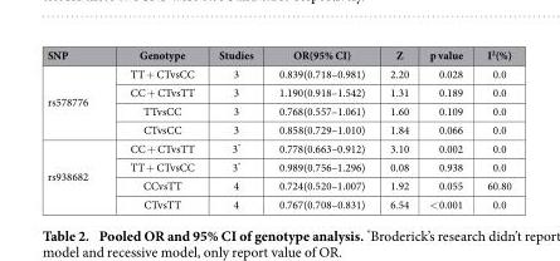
<table><thead><tr><td>SNP</td><td>Genotype</td><td>Studies</td><td>OR(95% CI)</td><td>Z</td><td>p value</td><td>I<sup>2</sup>(%)</td></tr></thead><tbody><tr><td rowspan="4">rs578776</td><td>TT + CTvsCC</td><td>3</td><td>0.839(0.718–0.981)</td><td>2.20</td><td>0.028</td><td>0.0</td></tr><tr><td>CC + CTvsTT</td><td>3</td><td>1.190(0.918–1.542)</td><td>1.31</td><td>0.189</td><td>0.0</td></tr><tr><td>TTvsCC</td><td>3</td><td>0.768(0.557–1.061)</td><td>1.60</td><td>0.109</td><td>0.0</td></tr><tr><td>CTvsCC</td><td>3</td><td>0.858(0.729–1.010)</td><td>1.84</td><td>0.066</td><td>0.0</td></tr><tr><td rowspan="4">rs938682</td><td>CC + CTvsTT</td><td>3*</td><td>0.778(0.663–0.912)</td><td>3.10</td><td>0.002</td><td>0.0</td></tr><tr><td>TT + CTvsCC</td><td>3*</td><td>0.989(0.756–1.296)</td><td>0.08</td><td>0.938</td><td>0.0</td></tr><tr><td>CCvsTT</td><td>4</td><td>0.724(0.520–1.007)</td><td>1.92</td><td>0.055</td><td>60.80</td></tr><tr><td>CTvsTT</td><td>4</td><td>0.767(0.708–0.831)</td><td>6.54</td><td>&lt; 0.001</td><td>0.0</td></tr></tbody></table>